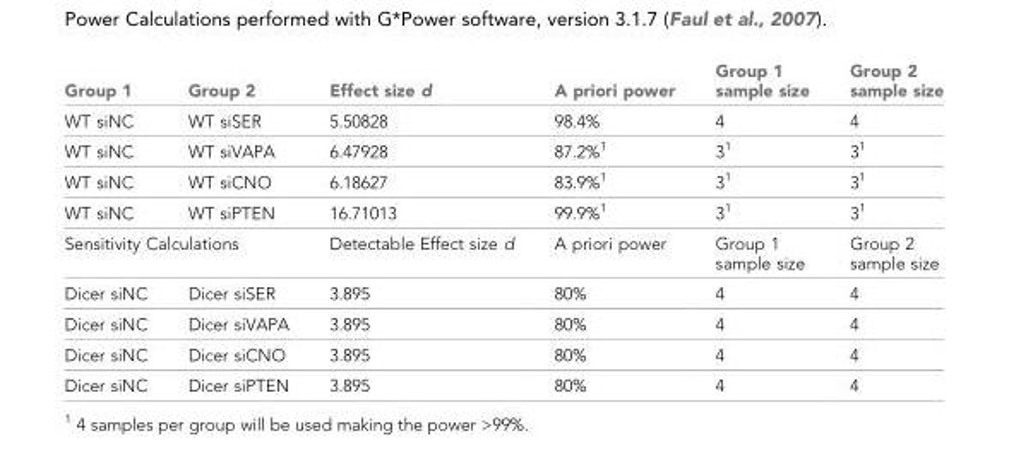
<table><thead><tr><td>Group 1</td><td>Group 2</td><td>Effect size d</td><td>A priori power</td><td>Group 1 sample size</td><td>Group 2 sample size</td></tr></thead><tbody><tr><td>WT siNC</td><td>WT siSER</td><td>5.50828</td><td>98.4%</td><td>4</td><td>4</td></tr><tr><td>WT siNC</td><td>WT siVAPA</td><td>6.47928</td><td>87.2%<sup>1</sup></td><td>3<sup>1</sup></td><td>3<sup>1</sup></td></tr><tr><td>WT siNC</td><td>WT siCNO</td><td>6.18627</td><td>83.9%<sup>1</sup></td><td>3<sup>1</sup></td><td>3<sup>1</sup></td></tr><tr><td>WT siNC</td><td>WT siPTEN</td><td>16.71013</td><td>99.9%<sup>1</sup></td><td>3<sup>1</sup></td><td>3<sup>1</sup></td></tr><tr><td colspan="2">Sensitivity Calculations</td><td>Detectable Effect size d</td><td>A priori power</td><td>Group 1 sample size</td><td>Group 2 sample size</td></tr><tr><td>Dicer siNC</td><td>Dicer siSER</td><td>3.895</td><td>80%</td><td>4</td><td>4</td></tr><tr><td>Dicer siNC</td><td>Dicer siVAPA</td><td>3.895</td><td>80%</td><td>4</td><td>4</td></tr><tr><td>Dicer siNC</td><td>Dicer siCNO</td><td>3.895</td><td>80%</td><td>4</td><td>4</td></tr><tr><td>Dicer siNC</td><td>Dicer siPTEN</td><td>3.895</td><td>80%</td><td>4</td><td>4</td></tr></tbody></table>